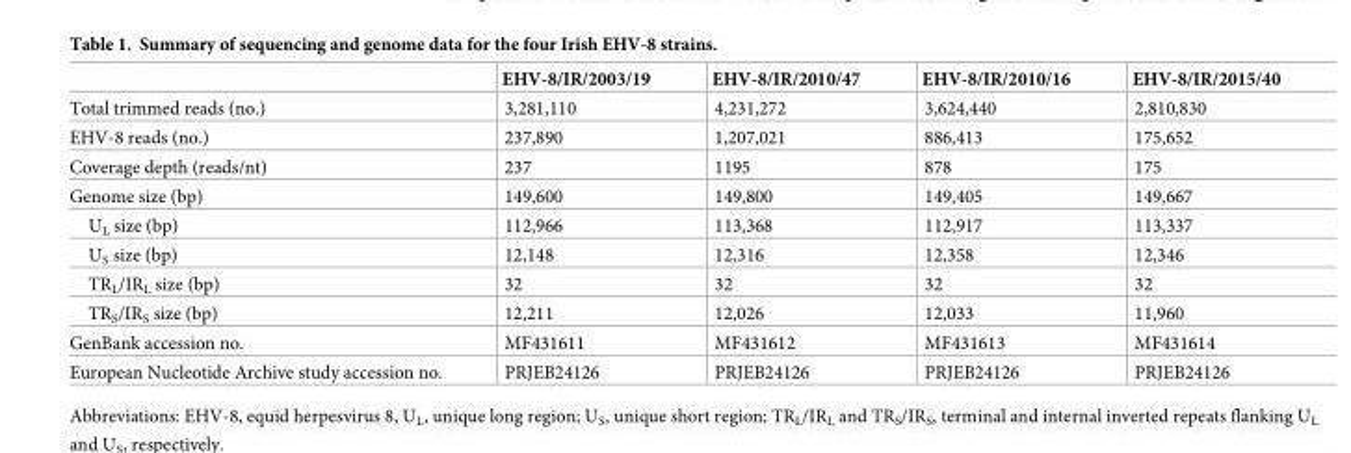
<table><thead><tr><td></td><td>EHV-8/IR/2003/19</td><td>EHV-8/IR/2010/47</td><td>EHV-8/IR/2010/16</td><td>EHV-8/IR/2015/40</td></tr></thead><tbody><tr><td>Total trimmed reads (no.)</td><td>3,281,110</td><td>4,231,272</td><td>3,624,440</td><td>2,810,830</td></tr><tr><td>EHV-8 reads (no.)</td><td>237,890</td><td>1,207,021</td><td>886,413</td><td>175,652</td></tr><tr><td>Coverage depth (reads/nt)</td><td>237</td><td>1195</td><td>878</td><td>175</td></tr><tr><td>Genome size (bp)</td><td>149,600</td><td>149,800</td><td>149,405</td><td>149,667</td></tr><tr><td>U<sub>L</sub> size (bp)</td><td>112,966</td><td>113,368</td><td>112,917</td><td>113,337</td></tr><tr><td>U<sub>S</sub> size (bp)</td><td>12,148</td><td>12,316</td><td>12,358</td><td>12,346</td></tr><tr><td>TR<sub>L</sub>/IR<sub>L</sub> size (bp)</td><td>32</td><td>32</td><td>32</td><td>32</td></tr><tr><td>TR<sub>S</sub>/IR<sub>S</sub> size (bp)</td><td>12,211</td><td>12,026</td><td>12,033</td><td>11,960</td></tr><tr><td>GenBank accession no.</td><td>MF431611</td><td>MF431612</td><td>MF431613</td><td>MF431614</td></tr><tr><td>European Nucleotide Archive study accession no.</td><td>PRJEB24126</td><td>PRJEB24126</td><td>PRJEB24126</td><td>PRJEB24126</td></tr></tbody></table>